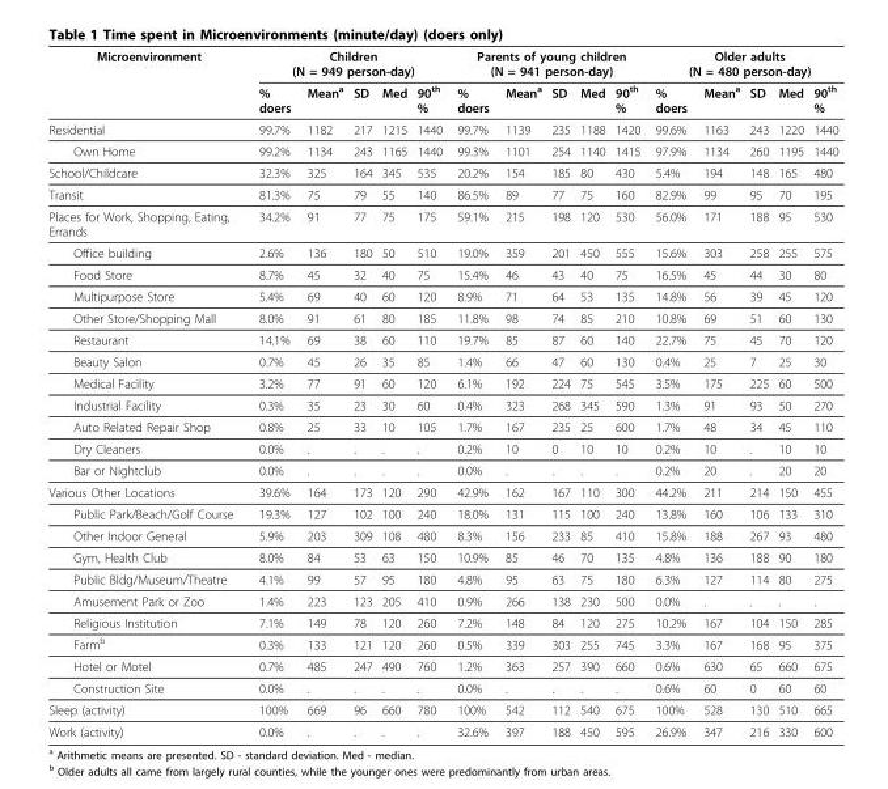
<table><thead><tr><td rowspan="2">Microenvironment</td><td colspan="5">Children (N = 949 person-day)</td><td colspan="5">Parents of young children (N = 941 person-day)</td><td colspan="5">Older adults (N = 480 person-day)</td></tr><tr><td>% doers</td><td>Mean<sup>a</sup></td><td>SD</td><td>Med</td><td>90<sup>th</sup> %</td><td>% doers</td><td>Mean<sup>a</sup></td><td>SD</td><td>Med</td><td>90<sup>th</sup> %</td><td>% doers</td><td>Mean<sup>a</sup></td><td>SD</td><td>Med</td><td>90<sup>th</sup> %</td></tr></thead><tbody><tr><td>Residential</td><td>99.7%</td><td>1182</td><td>217</td><td>1215</td><td>1440</td><td>99.7%</td><td>1139</td><td>235</td><td>1188</td><td>1420</td><td>99.6%</td><td>1163</td><td>243</td><td>1220</td><td>1440</td></tr><tr><td>Own Home</td><td>99.2%</td><td>1134</td><td>243</td><td>1165</td><td>1440</td><td>99.3%</td><td>1101</td><td>254</td><td>1140</td><td>1415</td><td>97.9%</td><td>1134</td><td>260</td><td>1195</td><td>1440</td></tr><tr><td>School/Childcare</td><td>32.3%</td><td>325</td><td>164</td><td>345</td><td>535</td><td>20.2%</td><td>154</td><td>185</td><td>80</td><td>430</td><td>5.4%</td><td>194</td><td>148</td><td>165</td><td>480</td></tr><tr><td>Transit</td><td>81.3%</td><td>75</td><td>79</td><td>55</td><td>140</td><td>86.5%</td><td>89</td><td>77</td><td>75</td><td>160</td><td>82.9%</td><td>99</td><td>95</td><td>70</td><td>195</td></tr><tr><td>Places for Work, Shopping, Eating, Errands</td><td>34.2%</td><td>91</td><td>77</td><td>75</td><td>175</td><td>59.1%</td><td>215</td><td>198</td><td>120</td><td>530</td><td>56.0%</td><td>171</td><td>188</td><td>95</td><td>530</td></tr><tr><td>Office building</td><td>2.6%</td><td>136</td><td>180</td><td>50</td><td>510</td><td>19.0%</td><td>359</td><td>201</td><td>450</td><td>555</td><td>15.6%</td><td>303</td><td>258</td><td>255</td><td>575</td></tr><tr><td>Food Store</td><td>8.7%</td><td>45</td><td>32</td><td>40</td><td>75</td><td>15.4%</td><td>46</td><td>43</td><td>40</td><td>75</td><td>16.5%</td><td>45</td><td>44</td><td>30</td><td>80</td></tr><tr><td>Multipurpose Store</td><td>5.4%</td><td>69</td><td>40</td><td>60</td><td>120</td><td>8.9%</td><td>71</td><td>64</td><td>53</td><td>135</td><td>14.8%</td><td>56</td><td>39</td><td>45</td><td>120</td></tr><tr><td>Other Store/Shopping Mall</td><td>8.0%</td><td>91</td><td>61</td><td>80</td><td>185</td><td>11.8%</td><td>98</td><td>74</td><td>85</td><td>210</td><td>10.8%</td><td>69</td><td>51</td><td>60</td><td>130</td></tr><tr><td>Restaurant</td><td>14.1%</td><td>69</td><td>38</td><td>60</td><td>110</td><td>19.7%</td><td>85</td><td>87</td><td>60</td><td>140</td><td>22.7%</td><td>75</td><td>45</td><td>70</td><td>120</td></tr><tr><td>Beauty Salon</td><td>0.7%</td><td>45</td><td>26</td><td>35</td><td>85</td><td>1.4%</td><td>66</td><td>47</td><td>60</td><td>130</td><td>0.4%</td><td>25</td><td>7</td><td>25</td><td>30</td></tr><tr><td>Medical Facility</td><td>3.2%</td><td>77</td><td>91</td><td>60</td><td>120</td><td>6.1%</td><td>192</td><td>224</td><td>75</td><td>545</td><td>3.5%</td><td>175</td><td>225</td><td>60</td><td>500</td></tr><tr><td>Industrial Facility</td><td>0.3%</td><td>35</td><td>23</td><td>30</td><td>60</td><td>0.4%</td><td>323</td><td>268</td><td>345</td><td>590</td><td>1.3%</td><td>91</td><td>93</td><td>50</td><td>270</td></tr><tr><td>Auto Related Repair Shop</td><td>0.8%</td><td>25</td><td>33</td><td>10</td><td>105</td><td>1.7%</td><td>167</td><td>235</td><td>25</td><td>600</td><td>1.7%</td><td>48</td><td>34</td><td>45</td><td>110</td></tr><tr><td>Dry Cleaners</td><td>0.0%</td><td>.</td><td>.</td><td>.</td><td>.</td><td>0.2%</td><td>10</td><td>0</td><td>10</td><td>10</td><td>0.2%</td><td>10</td><td>.</td><td>10</td><td>10</td></tr><tr><td>Bar or Nightclub</td><td>0.0%</td><td>.</td><td>.</td><td>.</td><td>.</td><td>0.0%</td><td>.</td><td>.</td><td>.</td><td>.</td><td>0.2%</td><td>20</td><td>.</td><td>20</td><td>20</td></tr><tr><td>Various Other Locations</td><td>39.6%</td><td>164</td><td>173</td><td>120</td><td>290</td><td>42.9%</td><td>162</td><td>167</td><td>110</td><td>300</td><td>44.2%</td><td>211</td><td>214</td><td>150</td><td>455</td></tr><tr><td>Public Park/Beach/Golf Course</td><td>19.3%</td><td>127</td><td>102</td><td>100</td><td>240</td><td>18.0%</td><td>131</td><td>115</td><td>100</td><td>240</td><td>13.8%</td><td>160</td><td>106</td><td>133</td><td>310</td></tr><tr><td>Other Indoor General</td><td>5.9%</td><td>203</td><td>309</td><td>108</td><td>480</td><td>8.3%</td><td>156</td><td>233</td><td>85</td><td>410</td><td>15.8%</td><td>188</td><td>267</td><td>93</td><td>480</td></tr><tr><td>Gym, Health Club</td><td>8.0%</td><td>84</td><td>53</td><td>63</td><td>150</td><td>10.9%</td><td>85</td><td>46</td><td>70</td><td>135</td><td>4.8%</td><td>136</td><td>188</td><td>90</td><td>180</td></tr><tr><td>Public Bldg/Museum/Theatre</td><td>4.1%</td><td>99</td><td>57</td><td>95</td><td>180</td><td>4.8%</td><td>95</td><td>63</td><td>75</td><td>180</td><td>6.3%</td><td>127</td><td>114</td><td>80</td><td>275</td></tr><tr><td>Amusement Park or Zoo</td><td>1.4%</td><td>223</td><td>123</td><td>205</td><td>410</td><td>0.9%</td><td>266</td><td>138</td><td>230</td><td>500</td><td>0.0%</td><td>.</td><td>.</td><td>.</td><td>.</td></tr><tr><td>Religious Institution</td><td>7.1%</td><td>149</td><td>78</td><td>120</td><td>260</td><td>7.2%</td><td>148</td><td>84</td><td>120</td><td>275</td><td>10.2%</td><td>167</td><td>104</td><td>150</td><td>285</td></tr><tr><td>Farm<sup>b</sup></td><td>0.3%</td><td>133</td><td>121</td><td>120</td><td>260</td><td>0.5%</td><td>339</td><td>303</td><td>255</td><td>745</td><td>3.3%</td><td>167</td><td>168</td><td>95</td><td>375</td></tr><tr><td>Hotel or Motel</td><td>0.7%</td><td>485</td><td>247</td><td>490</td><td>760</td><td>1.2%</td><td>363</td><td>257</td><td>390</td><td>660</td><td>0.6%</td><td>630</td><td>65</td><td>660</td><td>675</td></tr><tr><td>Construction Site</td><td>0.0%</td><td>.</td><td>.</td><td>.</td><td>.</td><td>0.0%</td><td>.</td><td>.</td><td>.</td><td>.</td><td>0.6%</td><td>60</td><td>0</td><td>60</td><td>60</td></tr><tr><td>Sleep (activity)</td><td>100%</td><td>669</td><td>96</td><td>660</td><td>780</td><td>100%</td><td>542</td><td>112</td><td>540</td><td>675</td><td>100%</td><td>528</td><td>130</td><td>510</td><td>665</td></tr><tr><td>Work (activity)</td><td>0.0%</td><td>.</td><td>.</td><td>.</td><td>.</td><td>32.6%</td><td>397</td><td>188</td><td>450</td><td>595</td><td>26.9%</td><td>347</td><td>216</td><td>330</td><td>600</td></tr></tbody></table>